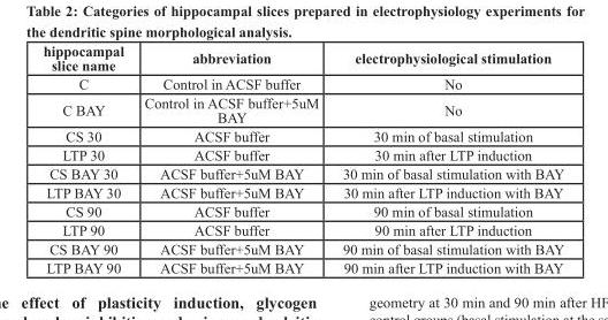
<table><thead><tr><td>hippocampal slice name</td><td>abbreviation</td><td>electrophysiological stimulation</td></tr></thead><tbody><tr><td>C</td><td>Control in ACSF buffer</td><td>No</td></tr><tr><td>C BAY</td><td>Control in ACSF buffer+5uM BAY</td><td>No</td></tr><tr><td>CS 30</td><td>ACSF buffer</td><td>30 min of basal stimulation</td></tr><tr><td>LTP 30</td><td>ACSF buffer</td><td>30 min after LTP induction</td></tr><tr><td>CS BAY 30</td><td>ACSF buffer+5uM BAY</td><td>30 min of basal stimulation with BAY</td></tr><tr><td>LTP BAY 30</td><td>ACSF buffer+5uM BAY</td><td>30 min after LTP induction with BAY</td></tr><tr><td>CS 90</td><td>ACSF buffer</td><td>90 min of basal stimulation</td></tr><tr><td>LTP 90</td><td>ACSF buffer</td><td>90 min after LTP induction</td></tr><tr><td>CS BAY 90</td><td>ACSF buffer+5uM BAY</td><td>90 min of basal stimulation with BAY</td></tr><tr><td>LTP BAY 90</td><td>ACSF buffer+5uM BAY</td><td>90 min after LTP induction with BAY</td></tr></tbody></table>